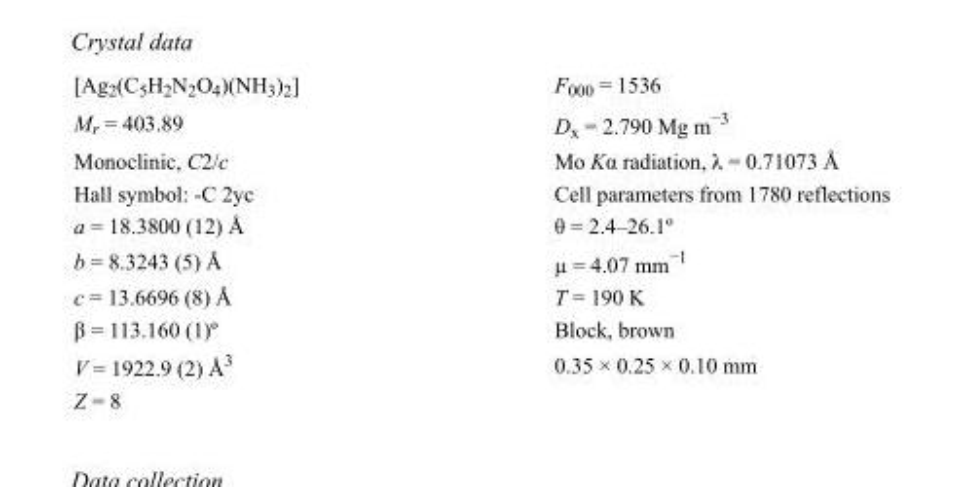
<table><tbody><tr><td>[Ag<sub>2</sub>(C<sub>5</sub>H<sub>2</sub>N<sub>2</sub>O<sub>4</sub>)(NH<sub>3</sub>)<sub>2</sub>]</td><td>F000 = 1536</td></tr><tr><td>M<sub>r</sub> = 403.89</td><td>D<sub>x</sub> = 2.790 Mg m<sup>−3</sup></td></tr><tr><td>Monoclinic, C2/c</td><td>Mo Kα radiation, λ = 0.71073 Å</td></tr><tr><td>Hall symbol: -C 2yc</td><td>Cell parameters from 1780 reflections</td></tr><tr><td>a = 18.3800 (12) Å</td><td>θ = 2.4–26.1º</td></tr><tr><td>b = 8.3243 (5) Å</td><td>µ = 4.07 mm<sup>−1</sup></td></tr><tr><td>c = 13.6696 (8) Å</td><td>T = 190 K</td></tr><tr><td>β = 113.160 (1)º</td><td>Block, brown</td></tr><tr><td>V = 1922.9 (2) Å<sup>3</sup></td><td>0.35 × 0.25 × 0.10 mm</td></tr><tr><td>Z = 8</td><td></td></tr></tbody></table>